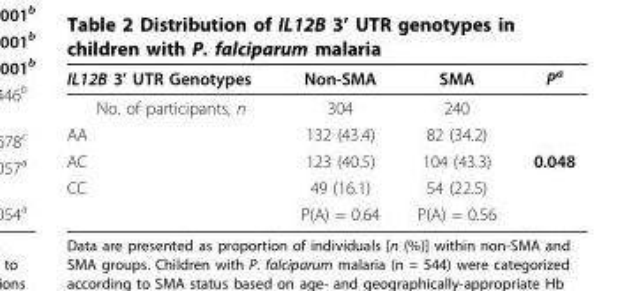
<table><thead><tr><td>IL12B 3’ UTR Genotypes</td><td>Non-SMA</td><td>SMA</td><td>P<sup>a</sup></td></tr></thead><tbody><tr><td>No. of participants, n</td><td>304</td><td>240</td><td></td></tr><tr><td>AA</td><td>132 (43.4)</td><td>82 (34.2)</td><td></td></tr><tr><td>AC</td><td>123 (40.5)</td><td>104 (43.3)</td><td>0.048</td></tr><tr><td rowspan="2">CC</td><td>49 (16.1)</td><td>54 (22.5)</td><td></td></tr><tr><td>P(A) = 0.64</td><td>P(A) = 0.56</td><td></td></tr></tbody></table>